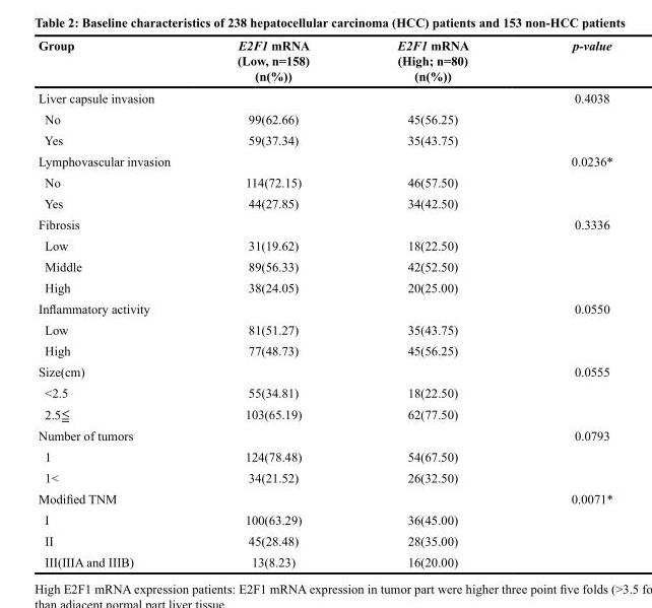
<table><thead><tr><td>Group</td><td>E2F1 mRNA (Low, n=158) (n(%))</td><td>E2F1 mRNA (High; n=80) (n(%))</td><td>p-value</td></tr></thead><tbody><tr><td>Liver capsule invasion</td><td></td><td></td><td>0.4038</td></tr><tr><td>No</td><td>99(62.66)</td><td>45(56.25)</td><td></td></tr><tr><td>Yes</td><td>59(37.34)</td><td>35(43.75)</td><td></td></tr><tr><td>Lymphovascular invasion</td><td></td><td></td><td>0.0236*</td></tr><tr><td>No</td><td>114(72.15)</td><td>46(57.50)</td><td></td></tr><tr><td>Yes</td><td>44(27.85)</td><td>34(42.50)</td><td></td></tr><tr><td>Fibrosis</td><td></td><td></td><td>0.3336</td></tr><tr><td>Low</td><td>31(19.62)</td><td>18(22.50)</td><td></td></tr><tr><td>Middle</td><td>89(56.33)</td><td>42(52.50)</td><td></td></tr><tr><td>High</td><td>38(24.05)</td><td>20(25.00)</td><td></td></tr><tr><td>Inflammatory activity</td><td></td><td></td><td>0.0550</td></tr><tr><td>Low</td><td>81(51.27)</td><td>35(43.75)</td><td></td></tr><tr><td>High</td><td>77(48.73)</td><td>45(56.25)</td><td></td></tr><tr><td>Size(cm)</td><td></td><td></td><td>0.0555</td></tr><tr><td>&lt;2.5</td><td>55(34.81)</td><td>18(22.50)</td><td></td></tr><tr><td>2.5≦</td><td>103(65.19)</td><td>62(77.50)</td><td></td></tr><tr><td>Number of tumors</td><td></td><td></td><td>0.0793</td></tr><tr><td>1</td><td>124(78.48)</td><td>54(67.50)</td><td></td></tr><tr><td>1&lt;</td><td>34(21.52)</td><td>26(32.50)</td><td></td></tr><tr><td>Modified TNM</td><td></td><td></td><td>0.0071*</td></tr><tr><td>I</td><td>100(63.29)</td><td>36(45.00)</td><td></td></tr><tr><td>II</td><td>45(28.48)</td><td>28(35.00)</td><td></td></tr><tr><td>III(IIIA and IIIB)</td><td>13(8.23)</td><td>16(20.00)</td><td></td></tr></tbody></table>